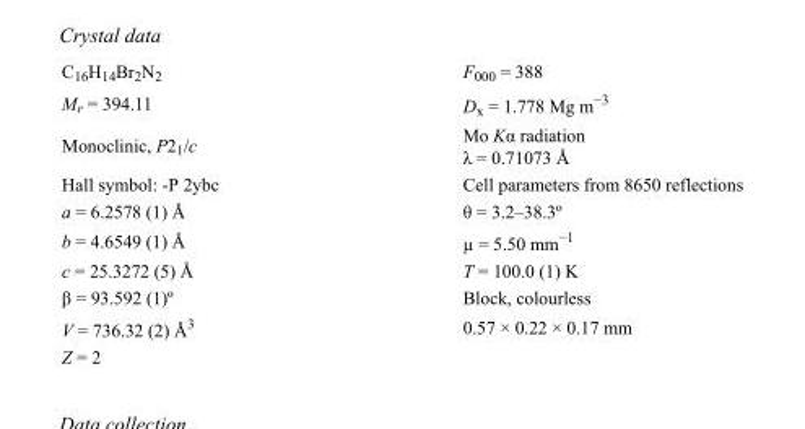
<table><tbody><tr><td>C<sub>16</sub>H<sub>14</sub>Br<sub>2</sub>N<sub>2</sub></td><td>F<sub>000</sub> = 388</td></tr><tr><td>M<sub>r</sub> = 394.11</td><td>D<sub>x</sub> = 1.778 Mg m<sup>−3</sup></td></tr><tr><td>Monoclinic, P2<sub>1</sub>/c</td><td>Mo Kα radiation λ = 0.71073 Å</td></tr><tr><td>Hall symbol: -P 2ybc</td><td>Cell parameters from 8650 reflections</td></tr><tr><td>a = 6.2578 (1) Å</td><td>θ = 3.2–38.3º</td></tr><tr><td>b = 4.6549 (1) Å</td><td>µ = 5.50 mm<sup>−1</sup></td></tr><tr><td>c = 25.3272 (5) Å</td><td>T = 100.0 (1) K</td></tr><tr><td>β = 93.592 (1)º</td><td>Block, colourless</td></tr><tr><td>V = 736.32 (2) Å<sup>3</sup></td><td>0.57 × 0.22 × 0.17 mm</td></tr><tr><td>Z = 2</td><td></td></tr></tbody></table>